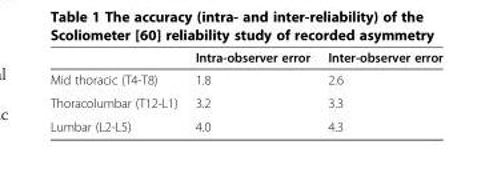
<table><thead><tr><td></td><td>Intra-observer error</td><td>Inter-observer error</td></tr></thead><tbody><tr><td>Mid thoracic (T4-T8)</td><td>1.8</td><td>2.6</td></tr><tr><td>Thoracolumbar (T12-L1)</td><td>3.2</td><td>3.3</td></tr><tr><td>Lumbar (L2-L5)</td><td>4.0</td><td>4.3</td></tr></tbody></table>